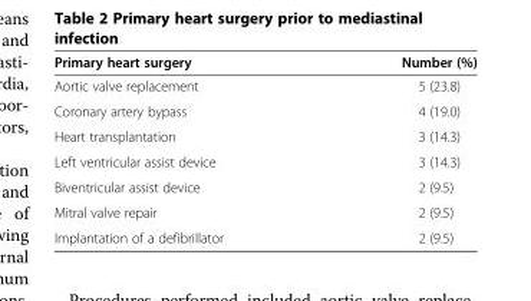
<table><thead><tr><td>Primary heart surgery</td><td>Number (%)</td></tr></thead><tbody><tr><td>Aortic valve replacement</td><td>5 (23.8)</td></tr><tr><td>Coronary artery bypass</td><td>4 (19.0)</td></tr><tr><td>Heart transplantation</td><td>3 (14.3)</td></tr><tr><td>Left ventricular assist device</td><td>3 (14.3)</td></tr><tr><td>Biventricular assist device</td><td>2 (9.5)</td></tr><tr><td>Mitral valve repair</td><td>2 (9.5)</td></tr><tr><td>Implantation of a defibrillator</td><td>2 (9.5)</td></tr></tbody></table>